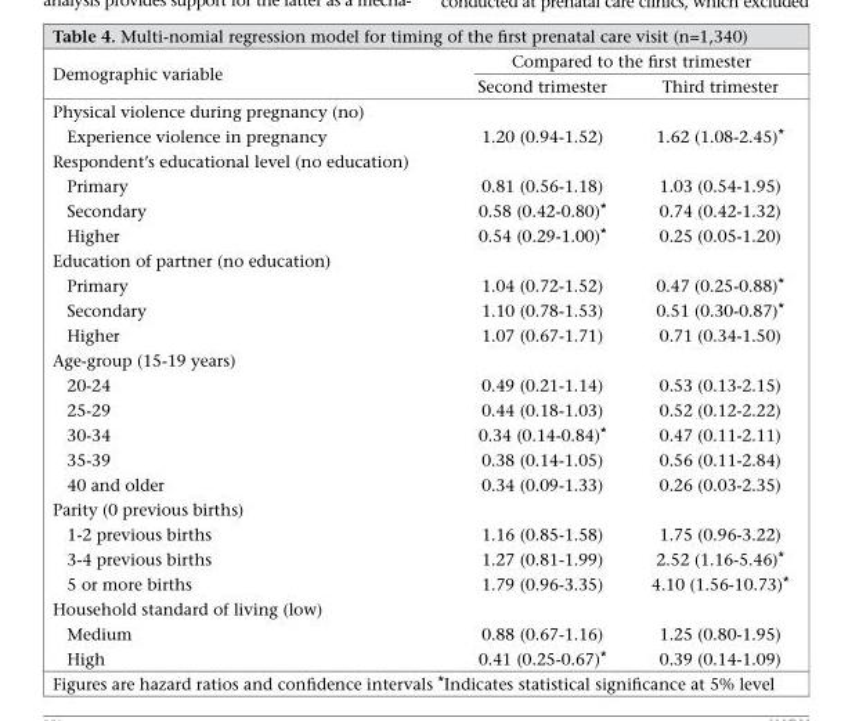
<table><thead><tr><td rowspan="2">Demographic variable</td><td colspan="2">Compared to the first trimester</td></tr><tr><td>Second trimester</td><td>Third trimester</td></tr></thead><tbody><tr><td colspan="3">Physical violence during pregnancy (no)</td></tr><tr><td>Experience violence in pregnancy</td><td>1.20 (0.94-1.52)</td><td>1.62 (1.08-2.45)*</td></tr><tr><td colspan="3">Respondent’s educational level (no education)</td></tr><tr><td>Primary</td><td>0.81 (0.56-1.18)</td><td>1.03 (0.54-1.95)</td></tr><tr><td>Secondary</td><td>0.58 (0.42-0.80)*</td><td>0.74 (0.42-1.32)</td></tr><tr><td>Higher</td><td>0.54 (0.29-1.00)*</td><td>0.25 (0.05-1.20)</td></tr><tr><td colspan="3">Education of partner (no education)</td></tr><tr><td>Primary</td><td>1.04 (0.72-1.52)</td><td>0.47 (0.25-0.88)*</td></tr><tr><td>Secondary</td><td>1.10 (0.78-1.53)</td><td>0.51 (0.30-0.87)*</td></tr><tr><td>Higher</td><td>1.07 (0.67-1.71)</td><td>0.71 (0.34-1.50)</td></tr><tr><td colspan="3">Age-group (15-19 years)</td></tr><tr><td>20-24</td><td>0.49 (0.21-1.14)</td><td>0.53 (0.13-2.15)</td></tr><tr><td>25-29</td><td>0.44 (0.18-1.03)</td><td>0.52 (0.12-2.22)</td></tr><tr><td>30-34</td><td>0.34 (0.14-0.84)*</td><td>0.47 (0.11-2.11)</td></tr><tr><td>35-39</td><td>0.38 (0.14-1.05)</td><td>0.56 (0.11-2.84)</td></tr><tr><td>40 and older</td><td>0.34 (0.09-1.33)</td><td>0.26 (0.03-2.35)</td></tr><tr><td colspan="3">Parity (0 previous births)</td></tr><tr><td>1-2 previous births</td><td>1.16 (0.85-1.58)</td><td>1.75 (0.96-3.22)</td></tr><tr><td>3-4 previous births</td><td>1.27 (0.81-1.99)</td><td>2.52 (1.16-5.46)*</td></tr><tr><td>5 or more births</td><td>1.79 (0.96-3.35)</td><td>4.10 (1.56-10.73)*</td></tr><tr><td colspan="3">Household standard of living (low)</td></tr><tr><td>Medium</td><td>0.88 (0.67-1.16)</td><td>1.25 (0.80-1.95)</td></tr><tr><td>High</td><td>0.41 (0.25-0.67)*</td><td>0.39 (0.14-1.09)</td></tr></tbody></table>